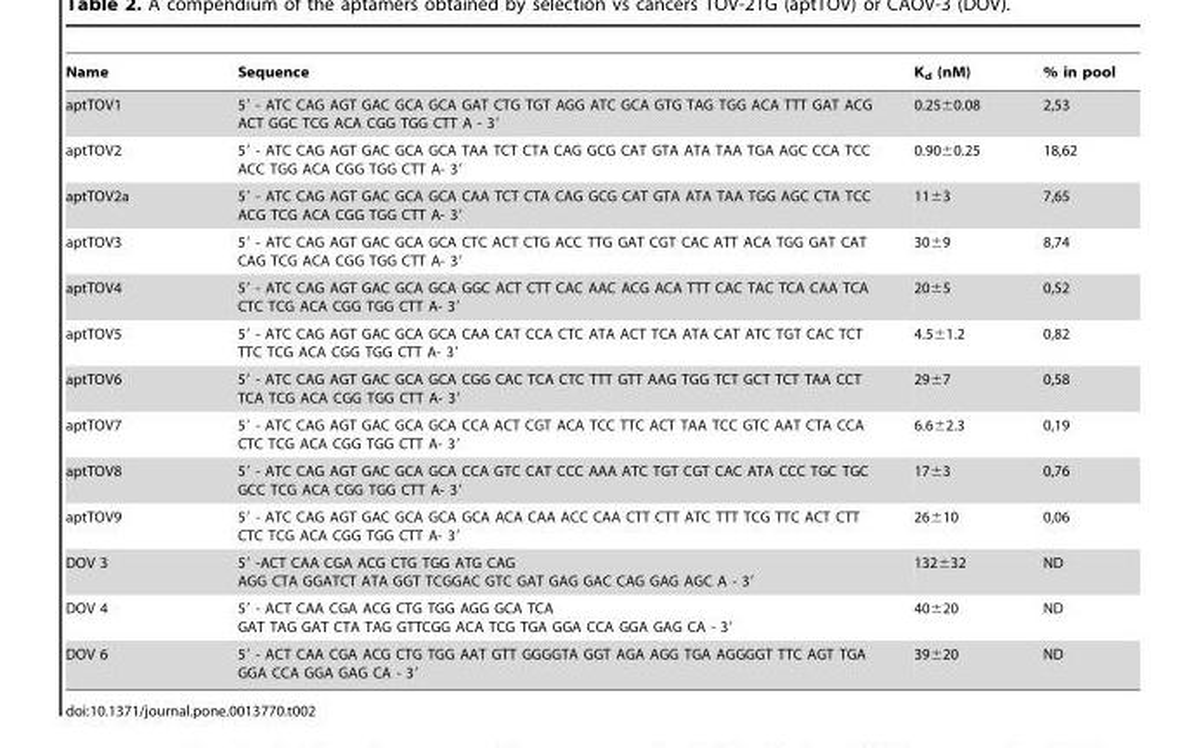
<table><thead><tr><td>Name</td><td>Sequence</td><td>K<sub>d</sub> (nM)</td><td>% in pool</td></tr></thead><tbody><tr><td>aptTOV1</td><td>5′ - ATC CAG AGT GAC GCA GCA GAT CTG TGT AGG ATC GCA GTG TAG TGG ACA TTT GAT ACG ACT GGC TCG ACA CGG TGG CTT A - 3′</td><td>0.25±0.08</td><td>2,53</td></tr><tr><td>aptTOV2</td><td>5′ - ATC CAG AGT GAC GCA GCA TAA TCT CTA CAG GCG CAT GTA ATA TAA TGA AGC CCA TCC ACC TGG ACA CGG TGG CTT A- 3′</td><td>0.90±0.25</td><td>18,62</td></tr><tr><td>aptTOV2a</td><td>5′ - ATC CAG AGT GAC GCA GCA CAA TCT CTA CAG GCG CAT GTA ATA TAA TGG AGC CTA TCC ACG TCG ACA CGG TGG CTT A- 3′</td><td>11±3</td><td>7,65</td></tr><tr><td>aptTOV3</td><td>5′ - ATC CAG AGT GAC GCA GCA CTC ACT CTG ACC TTG GAT CGT CAC ATT ACA TGG GAT CAT CAG TCG ACA CGG TGG CTT A- 3′</td><td>30±9</td><td>8,74</td></tr><tr><td>aptTOV4</td><td>5′ - ATC CAG AGT GAC GCA GCA GGC ACT CTT CAC AAC ACG ACA TTT CAC TAC TCA CAA TCA CTC TCG ACA CGG TGG CTT A- 3′</td><td>20±5</td><td>0,52</td></tr><tr><td>aptTOV5</td><td>5′ - ATC CAG AGT GAC GCA GCA CAA CAT CCA CTC ATA ACT TCA ATA CAT ATC TGT CAC TCT TTC TCG ACA CGG TGG CTT A- 3′</td><td>4.5±1.2</td><td>0,82</td></tr><tr><td>aptTOV6</td><td>5′ - ATC CAG AGT GAC GCA GCA CGG CAC TCA CTC TTT GTT AAG TGG TCT GCT TCT TAA CCT TCA TCG ACA CGG TGG CTT A- 3′</td><td>29±7</td><td>0,58</td></tr><tr><td>aptTOV7</td><td>5′ - ATC CAG AGT GAC GCA GCA CCA ACT CGT ACA TCC TTC ACT TAA TCC GTC AAT CTA CCA CTC TCG ACA CGG TGG CTT A- 3′</td><td>6.6±2.3</td><td>0,19</td></tr><tr><td>aptTOV8</td><td>5′ - ATC CAG AGT GAC GCA GCA CCA GTC CAT CCC AAA ATC TGT CGT CAC ATA CCC TGC TGC GCC TCG ACA CGG TGG CTT A- 3′</td><td>17±3</td><td>0,76</td></tr><tr><td>aptTOV9</td><td>5′ - ATC CAG AGT GAC GCA GCA GCA ACA CAA ACC CAA CTT CTT ATC TTT TCG TTC ACT CTT CTC TCG ACA CGG TGG CTT A- 3′</td><td>26±10</td><td>0,06</td></tr><tr><td>DOV 3</td><td>5′ -ACT CAA CGA ACG CTG TGG ATG CAG AGG CTA GGATCT ATA GGT TCGGAC GTC GAT GAG GAC CAG GAG AGC A - 3′</td><td>132±32</td><td>ND</td></tr><tr><td>DOV 4</td><td>5′ - ACT CAA CGA ACG CTG TGG AGG GCA TCA GAT TAG GAT CTA TAG GTTCGG ACA TCG TGA GGA CCA GGA GAG CA - 3′</td><td>40±20</td><td>ND</td></tr><tr><td>DOV 6</td><td>5′ - ACT CAA CGA ACG CTG TGG AAT GTT GGGGTA GGT AGA AGG TGA AGGGGT TTC AGT TGA GGA CCA GGA GAG CA - 3′</td><td>39±20</td><td>ND</td></tr></tbody></table>